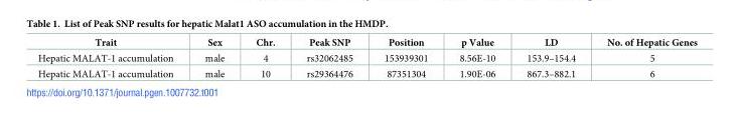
<table><thead><tr><td>Trait</td><td>Sex</td><td>Chr.</td><td>Peak SNP</td><td>Position</td><td>p Value</td><td>LD</td><td>No. of Hepatic Genes</td></tr></thead><tbody><tr><td>Hepatic MALAT-1 accumulation</td><td>male</td><td>4</td><td>rs32062485</td><td>153939301</td><td>8.56E-10</td><td>153.9–154.4</td><td>5</td></tr><tr><td>Hepatic MALAT-1 accumulation</td><td>male</td><td>10</td><td>rs29364476</td><td>87351304</td><td>1.90E-06</td><td>867.3–882.1</td><td>6</td></tr></tbody></table>